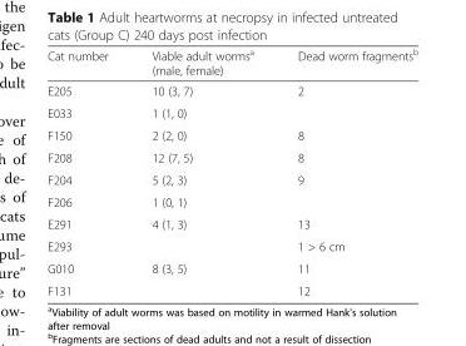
<table><thead><tr><td>Cat number</td><td>Viable adult worms<sup>a</sup> (male, female)</td><td>Dead worm fragments<sup>b</sup></td></tr></thead><tbody><tr><td>E205</td><td>10 (3, 7)</td><td>2</td></tr><tr><td>E033</td><td>1 (1, 0)</td><td></td></tr><tr><td>F150</td><td>2 (2, 0)</td><td>8</td></tr><tr><td>F208</td><td>12 (7, 5)</td><td>8</td></tr><tr><td>F204</td><td>5 (2, 3)</td><td>9</td></tr><tr><td>F206</td><td>1 (0, 1)</td><td></td></tr><tr><td>E291</td><td>4 (1, 3)</td><td>13</td></tr><tr><td>E293</td><td></td><td>1 &gt; 6 cm</td></tr><tr><td>G010</td><td>8 (3, 5)</td><td>11</td></tr><tr><td>F131</td><td></td><td>12</td></tr></tbody></table>